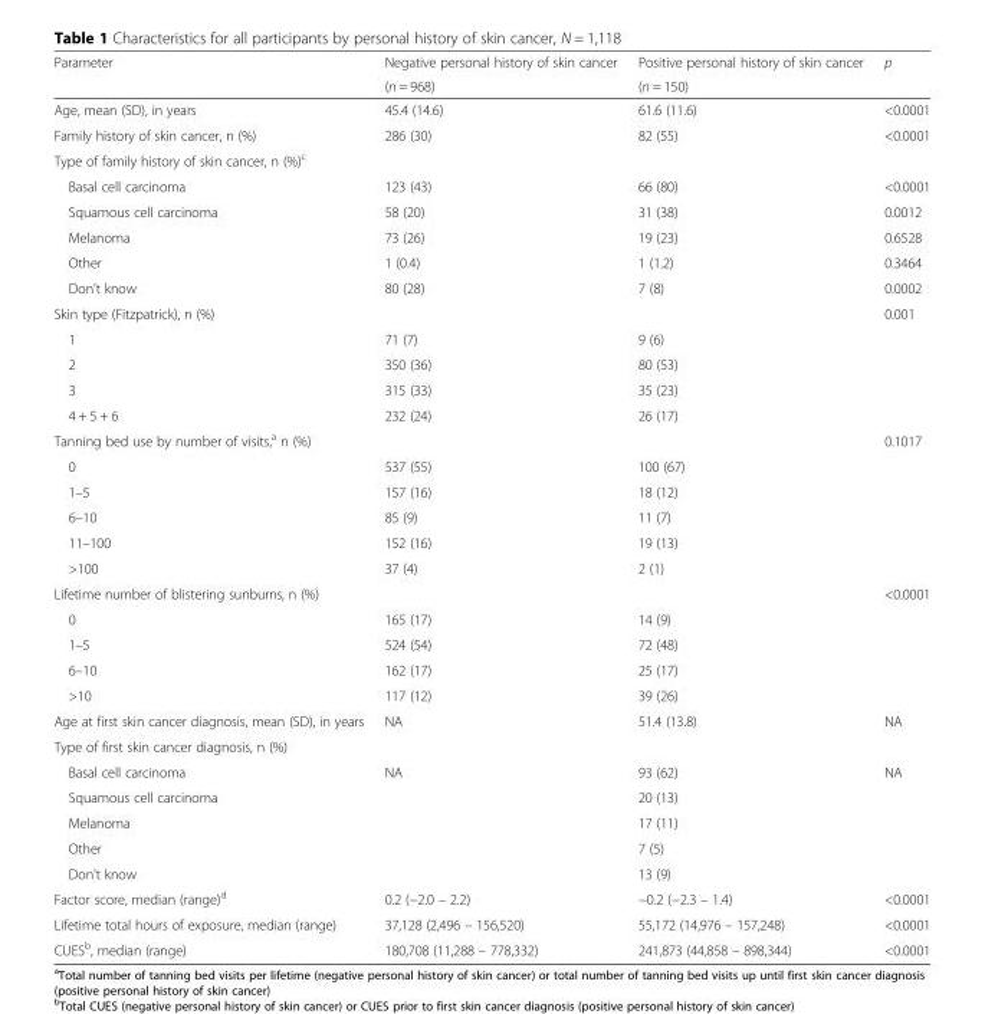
<table><thead><tr><td rowspan="2">Parameter</td><td rowspan="2">Negative personal history of skin cancer (n = 968)</td><td rowspan="2">Positive personal history of skin cancer (n = 150)</td><td rowspan="2">p</td></tr><tr></tr></thead><tbody><tr><td>Age, mean (SD), in years</td><td>45.4 (14.6)</td><td>61.6 (11.6)</td><td>&lt;0.0001</td></tr><tr><td>Family history of skin cancer, n (%)</td><td>286 (30)</td><td>82 (55)</td><td>&lt;0.0001</td></tr><tr><td colspan="4">Type of family history of skin cancer, n (%)<sup>c</sup></td></tr><tr><td>Basal cell carcinoma</td><td>123 (43)</td><td>66 (80)</td><td>&lt;0.0001</td></tr><tr><td>Squamous cell carcinoma</td><td>58 (20)</td><td>31 (38)</td><td>0.0012</td></tr><tr><td>Melanoma</td><td>73 (26)</td><td>19 (23)</td><td>0.6528</td></tr><tr><td>Other</td><td>1 (0.4)</td><td>1 (1.2)</td><td>0.3464</td></tr><tr><td>Don’t know</td><td>80 (28)</td><td>7 (8)</td><td>0.0002</td></tr><tr><td colspan="3">Skin type (Fitzpatrick), n (%)</td><td rowspan="5">0.001</td></tr><tr><td>1</td><td>71 (7)</td><td>9 (6)</td></tr><tr><td>2</td><td>350 (36)</td><td>80 (53)</td></tr><tr><td>3</td><td>315 (33)</td><td>35 (23)</td></tr><tr><td>4 + 5 + 6</td><td>232 (24)</td><td>26 (17)</td></tr><tr><td colspan="3">Tanning bed use by number of visits,<sup>a</sup> n (%)</td><td rowspan="6">0.1017</td></tr><tr><td>0</td><td>537 (55)</td><td>100 (67)</td></tr><tr><td>1–5</td><td>157 (16)</td><td>18 (12)</td></tr><tr><td>6–10</td><td>85 (9)</td><td>11 (7)</td></tr><tr><td>11–100</td><td>152 (16)</td><td>19 (13)</td></tr><tr><td>&gt;100</td><td>37 (4)</td><td>2 (1)</td></tr><tr><td colspan="3">Lifetime number of blistering sunburns, n (%)</td><td rowspan="5">&lt;0.0001</td></tr><tr><td>0</td><td>165 (17)</td><td>14 (9)</td></tr><tr><td>1–5</td><td>524 (54)</td><td>72 (48)</td></tr><tr><td>6–10</td><td>162 (17)</td><td>25 (17)</td></tr><tr><td>&gt;10</td><td>117 (12)</td><td>39 (26)</td></tr><tr><td>Age at first skin cancer diagnosis, mean (SD), in years</td><td>NA</td><td>51.4 (13.8)</td><td>NA</td></tr><tr><td colspan="4">Type of first skin cancer diagnosis, n (%)</td></tr><tr><td>Basal cell carcinoma</td><td rowspan="5">NA</td><td>93 (62)</td><td rowspan="5">NA</td></tr><tr><td>Squamous cell carcinoma</td><td>20 (13)</td></tr><tr><td>Melanoma</td><td>17 (11)</td></tr><tr><td>Other</td><td>7 (5)</td></tr><tr><td>Don’t know</td><td>13 (9)</td></tr><tr><td>Factor score, median (range)<sup>d</sup></td><td>0.2 (−2.0 – 2.2)</td><td>−0.2 (−2.3 – 1.4)</td><td>&lt;0.0001</td></tr><tr><td>Lifetime total hours of exposure, median (range)</td><td>37,128 (2,496 – 156,520)</td><td>55,172 (14,976 – 157,248)</td><td>&lt;0.0001</td></tr><tr><td>CUES<sup>b</sup>, median (range)</td><td>180,708 (11,288 – 778,332)</td><td>241,873 (44,858 – 898,344)</td><td>&lt;0.0001</td></tr></tbody></table>